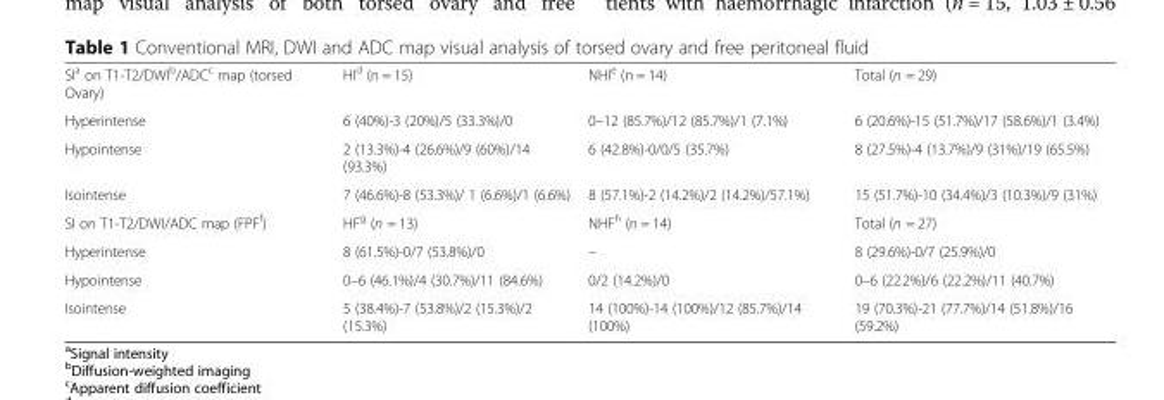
<table><tbody><tr><td>SI<sup>a</sup> on T1-T2/DWI<sup>b</sup>/ADC<sup>c</sup> map (torsed Ovary)</td><td>HI<sup>d</sup> (n = 15)</td><td>NHI<sup>e</sup> (n = 14)</td><td>Total (n = 29)</td></tr><tr><td>Hyperintense</td><td>6 (40%)-3 (20%)/5 (33.3%)/0</td><td>0–12 (85.7%)/12 (85.7%)/1 (7.1%)</td><td>6 (20.6%)-15 (51.7%)/17 (58.6%)/1 (3.4%)</td></tr><tr><td>Hypointense</td><td>2 (13.3%)-4 (26.6%)/9 (60%)/14 (93.3%)</td><td>6 (42.8%)-0/0/5 (35.7%)</td><td>8 (27.5%)-4 (13.7%)/9 (31%)/19 (65.5%)</td></tr><tr><td>Isointense</td><td>7 (46.6%)-8 (53.3%)/ 1 (6.6%)/1 (6.6%)</td><td>8 (57.1%)-2 (14.2%)/2 (14.2%)/57.1%)</td><td>15 (51.7%)-10 (34.4%)/3 (10.3%)/9 (31%)</td></tr><tr><td>SI on T1-T2/DWI/ADC map (FPF<sup>f</sup>)</td><td>HF<sup>g</sup> (n = 13)</td><td>NHF<sup>h</sup> (n = 14)</td><td>Total (n = 27)</td></tr><tr><td>Hyperintense</td><td>8 (61.5%)-0/7 (53.8%)/0</td><td>–</td><td>8 (29.6%)-0/7 (25.9%)/0</td></tr><tr><td>Hypointense</td><td>0–6 (46.1%)/4 (30.7%)/11 (84.6%)</td><td>0/2 (14.2%)/0</td><td>0–6 (22.2%)/6 (22.2%)/11 (40.7%)</td></tr><tr><td>Isointense</td><td>5 (38.4%)-7 (53.8%)/2 (15.3%)/2 (15.3%)</td><td>14 (100%)-14 (100%)/12 (85.7%)/14 (100%)</td><td>19 (70.3%)-21 (77.7%)/14 (51.8%)/16 (59.2%)</td></tr></tbody></table>